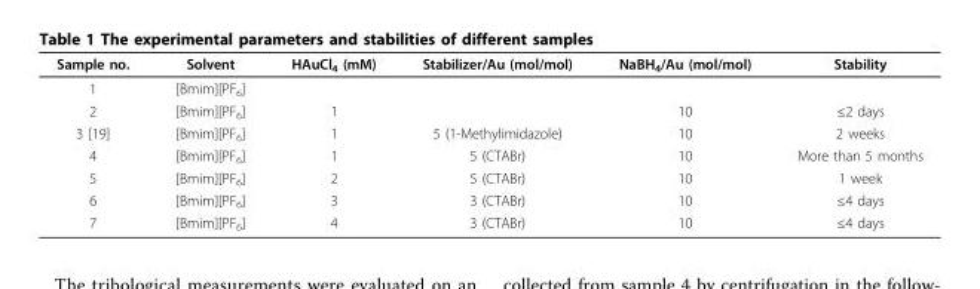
<table><thead><tr><td>Sample no.</td><td>Solvent</td><td>HAuCl<sub>4</sub> (mM)</td><td>Stabilizer/Au (mol/mol)</td><td>NaBH<sub>4</sub>/Au (mol/mol)</td><td>Stability</td></tr></thead><tbody><tr><td>1</td><td>[Bmim][PF<sub>6</sub>]</td><td></td><td></td><td></td><td></td></tr><tr><td>2</td><td>[Bmim][PF<sub>6</sub>]</td><td>1</td><td></td><td>10</td><td>≤2 days</td></tr><tr><td>3 [19]</td><td>[Bmim][PF<sub>6</sub>]</td><td>1</td><td>5 (1-Methylimidazole)</td><td>10</td><td>2 weeks</td></tr><tr><td>4</td><td>[Bmim][PF<sub>6</sub>]</td><td>1</td><td>5 (CTABr)</td><td>10</td><td>More than 5 months</td></tr><tr><td>5</td><td>[Bmim][PF<sub>6</sub>]</td><td>2</td><td>5 (CTABr)</td><td>10</td><td>1 week</td></tr><tr><td>6</td><td>[Bmim][PF<sub>6</sub>]</td><td>3</td><td>3 (CTABr)</td><td>10</td><td>≤4 days</td></tr><tr><td>7</td><td>[Bmim][PF<sub>6</sub>]</td><td>4</td><td>3 (CTABr)</td><td>10</td><td>≤4 days</td></tr></tbody></table>